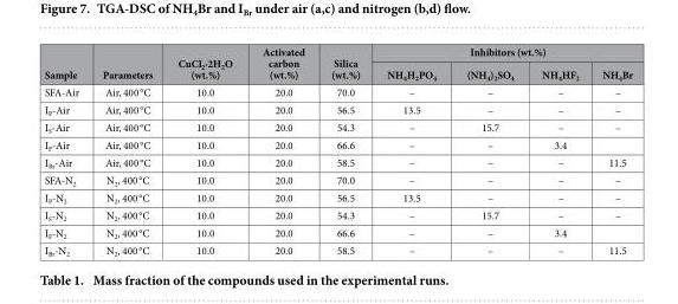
<table><thead><tr><td rowspan="2">Sample</td><td rowspan="2">Parameters</td><td rowspan="2">CuCl<sub>2</sub>·2H<sub>2</sub>O (wt.%)</td><td rowspan="2">Activated carbon (wt.%)</td><td rowspan="2">Silica (wt.%)</td><td colspan="4">Inhibitors (wt.%)</td></tr><tr><td>NH<sub>4</sub>H<sub>2</sub>PO<sub>4</sub></td><td>(NH<sub>4</sub>)<sub>2</sub>SO<sub>4</sub></td><td>NH<sub>4</sub>HF<sub>2</sub></td><td>NH<sub>4</sub>Br</td></tr></thead><tbody><tr><td>SFA-Air</td><td>Air, 400 °C</td><td>10.0</td><td>20.0</td><td>70.0</td><td>–</td><td>–</td><td>–</td><td>–</td></tr><tr><td>I<sub>P</sub>-Air</td><td>Air, 400 °C</td><td>10.0</td><td>20.0</td><td>56.5</td><td>13.5</td><td>–</td><td>–</td><td>–</td></tr><tr><td>I<sub>S</sub>-Air</td><td>Air, 400 °C</td><td>10.0</td><td>20.0</td><td>54.3</td><td>–</td><td>15.7</td><td>–</td><td>–</td></tr><tr><td>I<sub>F</sub>-Air</td><td>Air, 400 °C</td><td>10.0</td><td>20.0</td><td>66.6</td><td>–</td><td>–</td><td>3.4</td><td></td></tr><tr><td>I<sub>Br</sub>-Air</td><td>Air, 400 °C</td><td>10.0</td><td>20.0</td><td>58.5</td><td>–</td><td>–</td><td>–</td><td>11.5</td></tr><tr><td>SFA-N<sub>2</sub></td><td>N<sub>2</sub>, 400 °C</td><td>10.0</td><td>20.0</td><td>70.0</td><td>–</td><td>–</td><td>–</td><td>–</td></tr><tr><td>I<sub>P</sub>-N<sub>2</sub></td><td>N<sub>2</sub>, 400 °C</td><td>10.0</td><td>20.0</td><td>56.5</td><td>13.5</td><td>–</td><td>–</td><td>–</td></tr><tr><td>I<sub>S</sub>-N<sub>2</sub></td><td>N<sub>2</sub>, 400 °C</td><td>10.0</td><td>20.0</td><td>54.3</td><td>–</td><td>15.7</td><td>–</td><td>–</td></tr><tr><td>I<sub>F</sub>-N<sub>2</sub></td><td>N<sub>2</sub>, 400 °C</td><td>10.0</td><td>20.0</td><td>66.6</td><td>–</td><td>–</td><td>3.4</td><td></td></tr><tr><td>I<sub>Br</sub>-N<sub>2</sub></td><td>N<sub>2</sub>, 400 °C</td><td>10.0</td><td>20.0</td><td>58.5</td><td>–</td><td>–</td><td>–</td><td>11.5</td></tr></tbody></table>